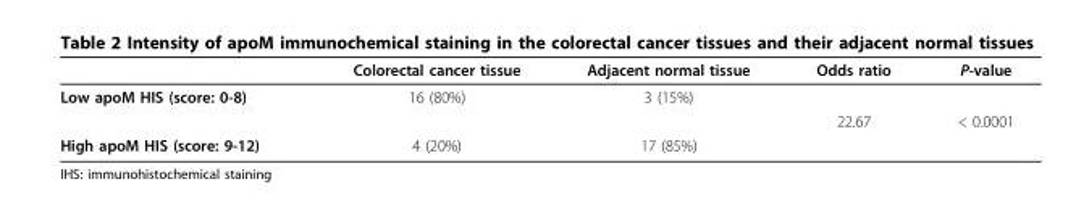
<table><thead><tr><td></td><td>Colorectal cancer tissue</td><td>Adjacent normal tissue</td><td>Odds ratio</td><td>P-value</td></tr></thead><tbody><tr><td rowspan="2">Low apoM HIS (score: 0-8)</td><td>16 (80%)</td><td>3 (15%)</td><td></td><td></td></tr><tr><td></td><td></td><td>22.67</td><td>&lt; 0.0001</td></tr><tr><td>High apoM HIS (score: 9-12)</td><td>4 (20%)</td><td>17 (85%)</td><td></td><td></td></tr></tbody></table>